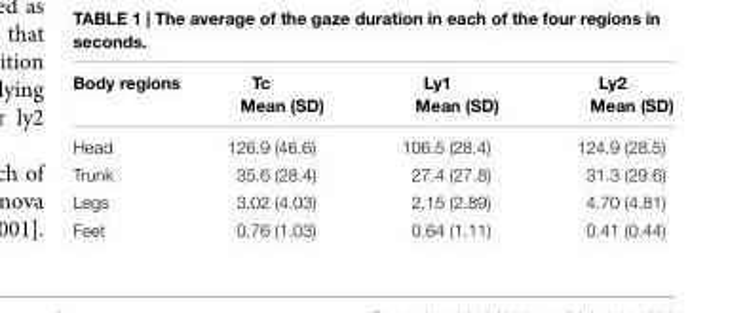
<table><thead><tr><td>Body regions</td><td>Tc Mean (SD)</td><td>Ly1 Mean (SD)</td><td>Ly2 Mean (SD)</td></tr></thead><tbody><tr><td>Head</td><td>126.9 (46.6)</td><td>106.5 (28.4)</td><td>124.9 (28.5)</td></tr><tr><td>Trunk</td><td>35.6 (28.4)</td><td>27.4 (27.8)</td><td>31.3 (29.6)</td></tr><tr><td>Legs</td><td>3.02 (4.03)</td><td>2.15 (2.89)</td><td>4.70 (4.81)</td></tr><tr><td>Feet</td><td>0.76 (1.03)</td><td>0.64 (1.11)</td><td>0.41 (0.44)</td></tr></tbody></table>